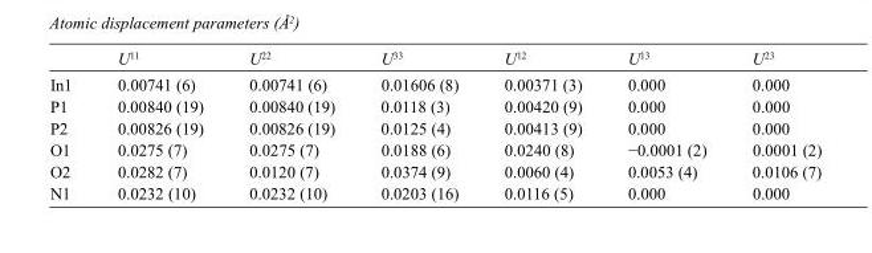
<table><thead><tr><td></td><td>U<sup>11</sup></td><td>U<sup>22</sup></td><td>U<sup>33</sup></td><td>U<sup>12</sup></td><td>U<sup>13</sup></td><td>U<sup>23</sup></td></tr></thead><tbody><tr><td>In1</td><td>0.00741 (6)</td><td>0.00741 (6)</td><td>0.01606 (8)</td><td>0.00371 (3)</td><td>0.000</td><td>0.000</td></tr><tr><td>P1</td><td>0.00840 (19)</td><td>0.00840 (19)</td><td>0.0118 (3)</td><td>0.00420 (9)</td><td>0.000</td><td>0.000</td></tr><tr><td>P2</td><td>0.00826 (19)</td><td>0.00826 (19)</td><td>0.0125 (4)</td><td>0.00413 (9)</td><td>0.000</td><td>0.000</td></tr><tr><td>O1</td><td>0.0275 (7)</td><td>0.0275 (7)</td><td>0.0188 (6)</td><td>0.0240 (8)</td><td>−0.0001 (2)</td><td>0.0001 (2)</td></tr><tr><td>O2</td><td>0.0282 (7)</td><td>0.0120 (7)</td><td>0.0374 (9)</td><td>0.0060 (4)</td><td>0.0053 (4)</td><td>0.0106 (7)</td></tr><tr><td>N1</td><td>0.0232 (10)</td><td>0.0232 (10)</td><td>0.0203 (16)</td><td>0.0116 (5)</td><td>0.000</td><td>0.000</td></tr></tbody></table>